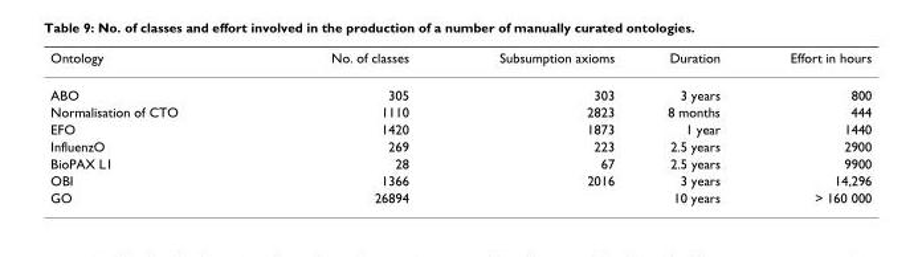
<table><thead><tr><td>Ontology</td><td>No. of classes</td><td>Subsumption axioms</td><td>Duration</td><td>Effort in hours</td></tr></thead><tbody><tr><td>ABO</td><td>305</td><td>303</td><td>3 years</td><td>800</td></tr><tr><td>Normalisation of CTO</td><td>1110</td><td>2823</td><td>8 months</td><td>444</td></tr><tr><td>EFO</td><td>1420</td><td>1873</td><td>1 year</td><td>1440</td></tr><tr><td>InfluenzO</td><td>269</td><td>223</td><td>2.5 years</td><td>2900</td></tr><tr><td>BioPAX L1</td><td>28</td><td>67</td><td>2.5 years</td><td>9900</td></tr><tr><td>OBI</td><td>1366</td><td>2016</td><td>3 years</td><td>14,296</td></tr><tr><td>GO</td><td>26894</td><td></td><td>10 years</td><td>&gt; 160 000</td></tr></tbody></table>